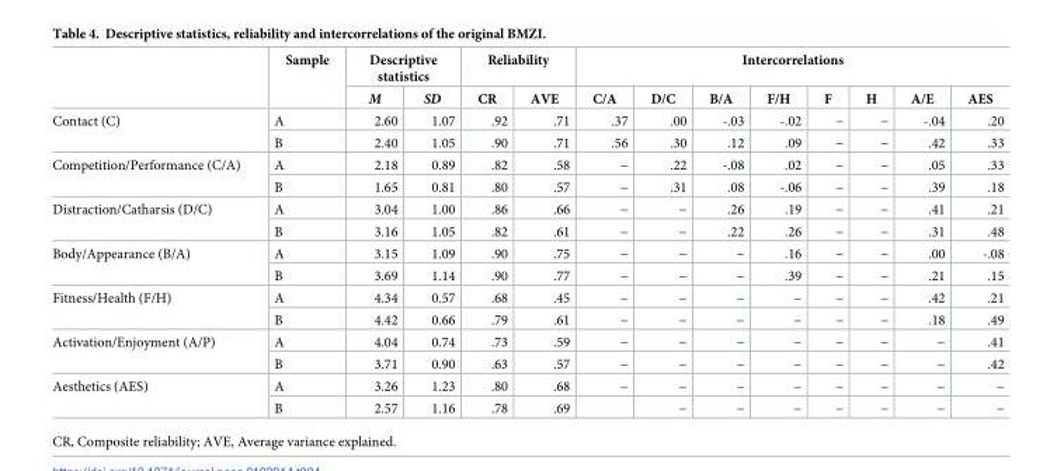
<table><thead><tr><td rowspan="2"></td><td rowspan="2">Sample</td><td colspan="2">Descriptive statistics</td><td colspan="2">Reliability</td><td colspan="8">Intercorrelations</td></tr><tr><td>M</td><td>SD</td><td>CR</td><td>AVE</td><td>C/A</td><td>D/C</td><td>B/A</td><td>F/H</td><td>F</td><td>H</td><td>A/E</td><td>AES</td></tr></thead><tbody><tr><td rowspan="2">Contact (C)</td><td>A</td><td>2.60</td><td>1.07</td><td>.92</td><td>.71</td><td>.37</td><td>.00</td><td>-.03</td><td>-.02</td><td>−</td><td>−</td><td>-.04</td><td>.20</td></tr><tr><td>B</td><td>2.40</td><td>1.05</td><td>.90</td><td>.71</td><td>.56</td><td>.30</td><td>.12</td><td>.09</td><td>−</td><td>−</td><td>.42</td><td>.33</td></tr><tr><td rowspan="2">Competition/Performance (C/A)</td><td>A</td><td>2.18</td><td>0.89</td><td>.82</td><td>.58</td><td>−</td><td>.22</td><td>-.08</td><td>.02</td><td>−</td><td>−</td><td>.05</td><td>.33</td></tr><tr><td>B</td><td>1.65</td><td>0.81</td><td>.80</td><td>.57</td><td>−</td><td>.31</td><td>.08</td><td>-.06</td><td>−</td><td>−</td><td>.39</td><td>.18</td></tr><tr><td rowspan="2">Distraction/Catharsis (D/C)</td><td>A</td><td>3.04</td><td>1.00</td><td>.86</td><td>.66</td><td>−</td><td>−</td><td>.26</td><td>.19</td><td>−</td><td>−</td><td>.41</td><td>.21</td></tr><tr><td>B</td><td>3.16</td><td>1.05</td><td>.82</td><td>.61</td><td>−</td><td>−</td><td>.22</td><td>.26</td><td>−</td><td>−</td><td>.31</td><td>.48</td></tr><tr><td rowspan="2">Body/Appearance (B/A)</td><td>A</td><td>3.15</td><td>1.09</td><td>.90</td><td>.75</td><td>−</td><td>−</td><td>−</td><td>.16</td><td>−</td><td>−</td><td>.00</td><td>-.08</td></tr><tr><td>B</td><td>3.69</td><td>1.14</td><td>.90</td><td>.77</td><td>−</td><td>−</td><td>−</td><td>.39</td><td>−</td><td>−</td><td>.21</td><td>.15</td></tr><tr><td rowspan="2">Fitness/Health (F/H)</td><td>A</td><td>4.34</td><td>0.57</td><td>.68</td><td>.45</td><td>−</td><td>−</td><td>−</td><td>−</td><td>−</td><td>−</td><td>.42</td><td>.21</td></tr><tr><td>B</td><td>4.42</td><td>0.66</td><td>.79</td><td>.61</td><td>−</td><td>−</td><td>−</td><td>−</td><td>−</td><td>−</td><td>.18</td><td>.49</td></tr><tr><td rowspan="2">Activation/Enjoyment (A/P)</td><td>A</td><td>4.04</td><td>0.74</td><td>.73</td><td>.59</td><td>−</td><td>−</td><td>−</td><td>−</td><td>−</td><td>−</td><td>−</td><td>.41</td></tr><tr><td>B</td><td>3.71</td><td>0.90</td><td>.63</td><td>.57</td><td>−</td><td>−</td><td>−</td><td>−</td><td>−</td><td>−</td><td>−</td><td>.42</td></tr><tr><td rowspan="2">Aesthetics (AES)</td><td>A</td><td>3.26</td><td>1.23</td><td>.80</td><td>.68</td><td>−</td><td>−</td><td>−</td><td>−</td><td>−</td><td>−</td><td>−</td><td>−</td></tr><tr><td>B</td><td>2.57</td><td>1.16</td><td>.78</td><td>.69</td><td></td><td>−</td><td>−</td><td>−</td><td>−</td><td>−</td><td>−</td><td>−</td></tr></tbody></table>